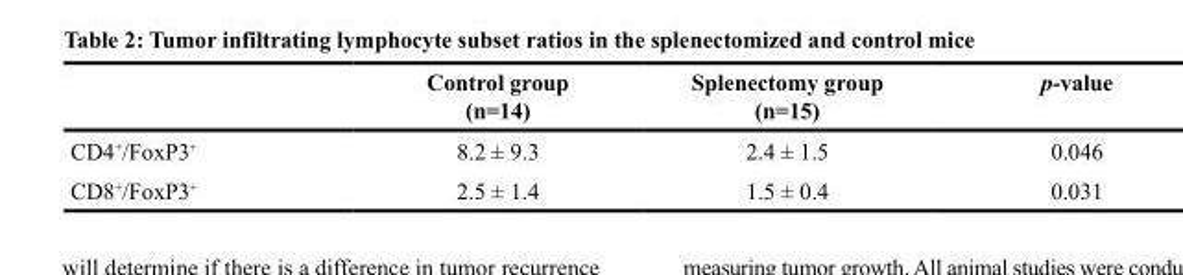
<table><thead><tr><td></td><td>Control group (n=14)</td><td>Splenectomy group (n=15)</td><td>p-value</td></tr></thead><tbody><tr><td>CD4<sup>+</sup>/FoxP3<sup>+</sup></td><td>8.2 ± 9.3</td><td>2.4 ± 1.5</td><td>0.046</td></tr><tr><td>CD8<sup>+</sup>/FoxP3<sup>+</sup></td><td>2.5 ± 1.4</td><td>1.5 ± 0.4</td><td>0.031</td></tr></tbody></table>